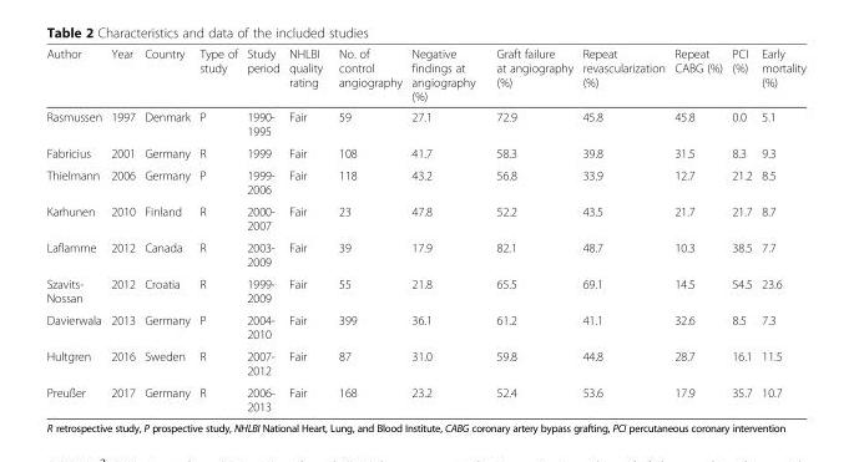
<table><thead><tr><td>Author</td><td>Year</td><td>Country</td><td>Type of study</td><td>Study period</td><td>NHLBI quality rating</td><td>No. of control angiography</td><td>Negative findings at angiography (%)</td><td>Graft failure at angiography (%)</td><td>Repeat revascularization (%)</td><td>Repeat CABG (%)</td><td>PCI (%)</td><td>Early mortality (%)</td></tr></thead><tbody><tr><td>Rasmussen</td><td>1997</td><td>Denmark</td><td>P</td><td>1990- 1995</td><td>Fair</td><td>59</td><td>27.1</td><td>72.9</td><td>45.8</td><td>45.8</td><td>0.0</td><td>5.1</td></tr><tr><td>Fabricius</td><td>2001</td><td>Germany</td><td>R</td><td>1999</td><td>Fair</td><td>108</td><td>41.7</td><td>58.3</td><td>39.8</td><td>31.5</td><td>8.3</td><td>9.3</td></tr><tr><td>Thielmann</td><td>2006</td><td>Germany</td><td>P</td><td>1999- 2006</td><td>Fair</td><td>118</td><td>43.2</td><td>56.8</td><td>33.9</td><td>12.7</td><td>21.2</td><td>8.5</td></tr><tr><td>Karhunen</td><td>2010</td><td>Finland</td><td>R</td><td>2000- 2007</td><td>Fair</td><td>23</td><td>47.8</td><td>52.2</td><td>43.5</td><td>21.7</td><td>21.7</td><td>8.7</td></tr><tr><td>Laflamme</td><td>2012</td><td>Canada</td><td>R</td><td>2003- 2009</td><td>Fair</td><td>39</td><td>17.9</td><td>82.1</td><td>48.7</td><td>10.3</td><td>38.5</td><td>7.7</td></tr><tr><td>Szavits- Nossan</td><td>2012</td><td>Croatia</td><td>R</td><td>1999- 2009</td><td>Fair</td><td>55</td><td>21.8</td><td>65.5</td><td>69.1</td><td>14.5</td><td>54.5</td><td>23.6</td></tr><tr><td>Davierwala</td><td>2013</td><td>Germany</td><td>P</td><td>2004- 2010</td><td>Fair</td><td>399</td><td>36.1</td><td>61.2</td><td>41.1</td><td>32.6</td><td>8.5</td><td>7.3</td></tr><tr><td>Hultgren</td><td>2016</td><td>Sweden</td><td>R</td><td>2007- 2012</td><td>Fair</td><td>87</td><td>31.0</td><td>59.8</td><td>44.8</td><td>28.7</td><td>16.1</td><td>11.5</td></tr><tr><td>Preußer</td><td>2017</td><td>Germany</td><td>R</td><td>2006- 2013</td><td>Fair</td><td>168</td><td>23.2</td><td>52.4</td><td>53.6</td><td>17.9</td><td>35.7</td><td>10.7</td></tr></tbody></table>